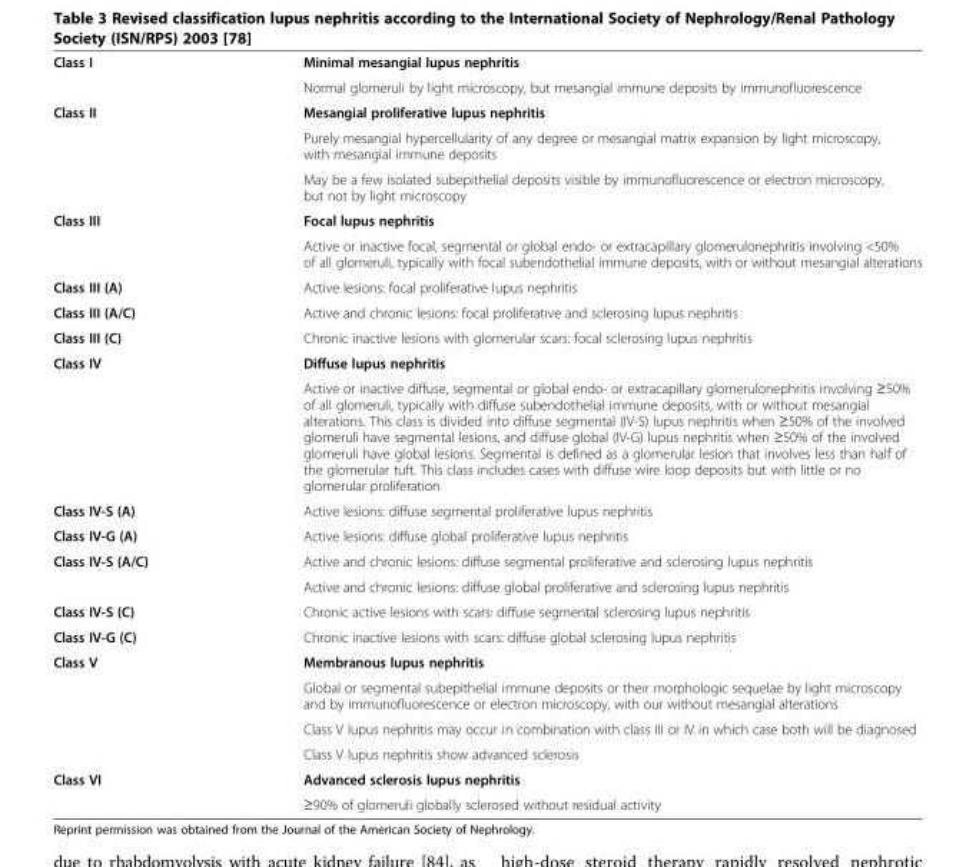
<table><tbody><tr><td rowspan="2">Class I</td><td>Minimal mesangial lupus nephritis</td></tr><tr><td>Normal glomeruli by light microscopy, but mesangial immune deposits by immunofluorescence</td></tr><tr><td rowspan="3">Class II</td><td>Mesangial proliferative lupus nephritis</td></tr><tr><td>Purely mesangial hypercellularity of any degree or mesangial matrix expansion by light microscopy, with mesangial immune deposits</td></tr><tr><td>May be a few isolated subepithelial deposits visible by immunofluorescence or electron microscopy, but not by light microscopy</td></tr><tr><td rowspan="2">Class III</td><td>Focal lupus nephritis</td></tr><tr><td>Active or inactive focal, segmental or global endo- or extracapillary glomerulonephritis involving &lt;50% of all glomeruli, typically with focal subendothelial immune deposits, with or without mesangial alterations</td></tr><tr><td>Class III (A)</td><td>Active lesions: focal proliferative lupus nephritis</td></tr><tr><td>Class III (A/C)</td><td>Active and chronic lesions: focal proliferative and sclerosing lupus nephritis</td></tr><tr><td>Class III (C)</td><td>Chronic inactive lesions with glomerular scars: focal sclerosing lupus nephritis</td></tr><tr><td rowspan="2">Class IV</td><td>Diffuse lupus nephritis</td></tr><tr><td>Active or inactive diffuse, segmental or global endo- or extracapillary glomerulonephritis involving ≥50% of all glomeruli, typically with diffuse subendothelial immune deposits, with or without mesangial alterations. This class is divided into diffuse segmental (IV-S) lupus nephritis when ≥50% of the involved glomeruli have segmental lesions, and diffuse global (IV-G) lupus nephritis when ≥50% of the involved glomeruli have global lesions. Segmental is defined as a glomerular lesion that involves less than half of the glomerular tuft. This class includes cases with diffuse wire loop deposits but with little or no glomerular proliferation</td></tr><tr><td>Class IV-S (A)</td><td>Active lesions: diffuse segmental proliferative lupus nephritis</td></tr><tr><td>Class IV-G (A)</td><td>Active lesions: diffuse global proliferative lupus nephritis</td></tr><tr><td rowspan="2">Class IV-S (A/C)</td><td>Active and chronic lesions: diffuse segmental proliferative and sclerosing lupus nephritis</td></tr><tr><td>Active and chronic lesions: diffuse global proliferative and sclerosing lupus nephritis</td></tr><tr><td>Class IV-S (C)</td><td>Chronic active lesions with scars: diffuse segmental sclerosing lupus nephritis</td></tr><tr><td>Class IV-G (C)</td><td>Chronic inactive lesions with scars: diffuse global sclerosing lupus nephritis</td></tr><tr><td rowspan="4">Class V</td><td>Membranous lupus nephritis</td></tr><tr><td>Global or segmental subepithelial immune deposits or their morphologic sequelae by light microscopy and by immunofluorescence or electron microscopy, with our without mesangial alterations</td></tr><tr><td>Class V lupus nephritis may occur in combination with class III or IV in which case both will be diagnosed</td></tr><tr><td>Class V lupus nephritis show advanced sclerosis</td></tr><tr><td rowspan="2">Class VI</td><td>Advanced sclerosis lupus nephritis</td></tr><tr><td>≥90% of glomeruli globally sclerosed without residual activity</td></tr></tbody></table>